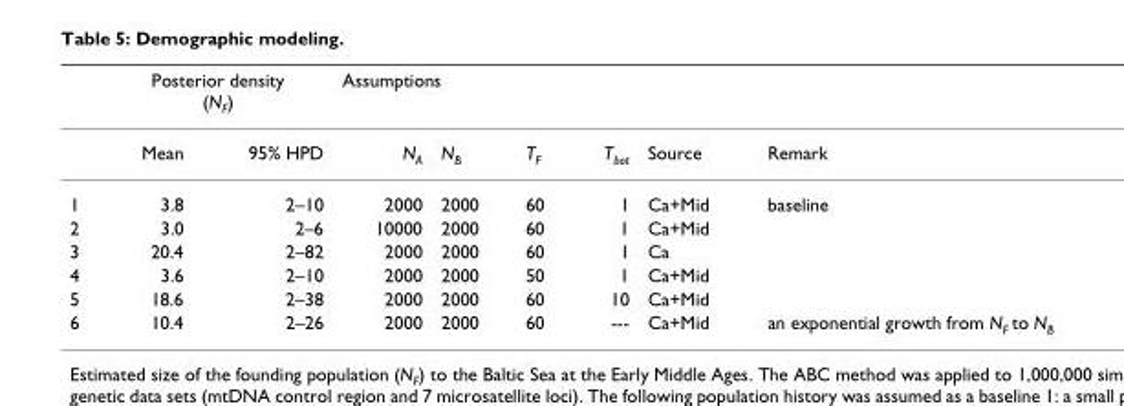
<table><thead><tr><td rowspan="2"></td><td colspan="2">Posterior density (N<sub>F</sub>)</td><td colspan="6">Assumptions</td></tr><tr><td>Mean</td><td>95% HPD</td><td>N<sub>A</sub></td><td>N<sub>B</sub></td><td>T<sub>F</sub></td><td>T<sub>bot</sub></td><td>Source</td><td>Remark</td></tr></thead><tbody><tr><td>1</td><td>3.8</td><td>2–10</td><td>2000</td><td>2000</td><td>60</td><td>1</td><td>Ca+Mid</td><td>baseline</td></tr><tr><td>2</td><td>3.0</td><td>2–6</td><td>10000</td><td>2000</td><td>60</td><td>1</td><td>Ca+Mid</td><td></td></tr><tr><td>3</td><td>20.4</td><td>2–82</td><td>2000</td><td>2000</td><td>60</td><td>1</td><td>Ca</td><td></td></tr><tr><td>4</td><td>3.6</td><td>2–10</td><td>2000</td><td>2000</td><td>50</td><td>1</td><td>Ca+Mid</td><td></td></tr><tr><td>5</td><td>18.6</td><td>2–38</td><td>2000</td><td>2000</td><td>60</td><td>10</td><td>Ca+Mid</td><td></td></tr><tr><td>6</td><td>10.4</td><td>2–26</td><td>2000</td><td>2000</td><td>60</td><td>---</td><td>Ca+Mid</td><td>an exponential growth from N<sub>F</sub> to N<sub>B</sub></td></tr></tbody></table>